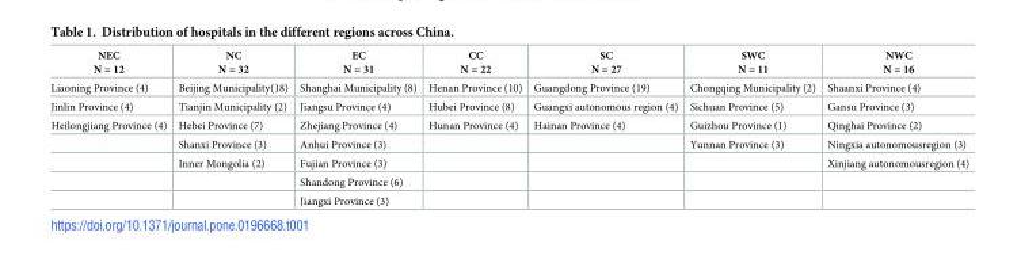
<table><thead><tr><td>NEC N = 12</td><td>NC N = 32</td><td>EC N = 31</td><td>CC N = 22</td><td>SC N = 27</td><td>SWC N = 11</td><td>NWC N = 16</td></tr></thead><tbody><tr><td>Liaoning Province (4)</td><td>Beijing Municipality(18)</td><td>Shanghai Municipality (8)</td><td>Henan Province (10)</td><td>Guangdong Province (19)</td><td>Chongqing Municipality (2)</td><td>Shaanxi Province (4)</td></tr><tr><td>Jinlin Province (4)</td><td>Tianjin Municipality (2)</td><td>Jiangsu Province (4)</td><td>Hubei Province (8)</td><td>Guangxi autonomous region (4)</td><td>Sichuan Province (5)</td><td>Gansu Province (3)</td></tr><tr><td rowspan="5">Heilongjiang Province (4)</td><td>Hebei Province (7)</td><td>Zhejiang Province (4)</td><td>Hunan Province (4)</td><td>Hainan Province (4)</td><td>Guizhou Province (1)</td><td>Qinghai Province (2)</td></tr><tr><td>Shanxi Province (3)</td><td>Anhui Province (3)</td><td></td><td></td><td>Yunnan Province (3)</td><td>Ningxia autonomousregion (3)</td></tr><tr><td>Inner Mongolia (2)</td><td>Fujian Province (3)</td><td></td><td></td><td></td><td>Xinjiang autonomousregion (4)</td></tr><tr><td></td><td>Shandong Province (6)</td><td></td><td></td><td></td><td></td></tr><tr><td></td><td>Jiangxi Province (3)</td><td></td><td></td><td></td><td></td></tr></tbody></table>